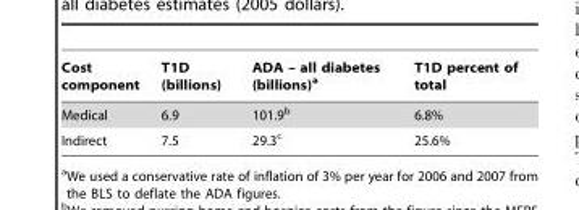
<table><thead><tr><td>Cost component</td><td>T1D (billions)</td><td>ADA – all diabetes (billions)<sup>a</sup></td><td>T1D percent of total</td></tr></thead><tbody><tr><td>Medical</td><td>6.9</td><td>101.9<sup>b</sup></td><td>6.8%</td></tr><tr><td>Indirect</td><td>7.5</td><td>29.3<sup>c</sup></td><td>25.6%</td></tr></tbody></table>